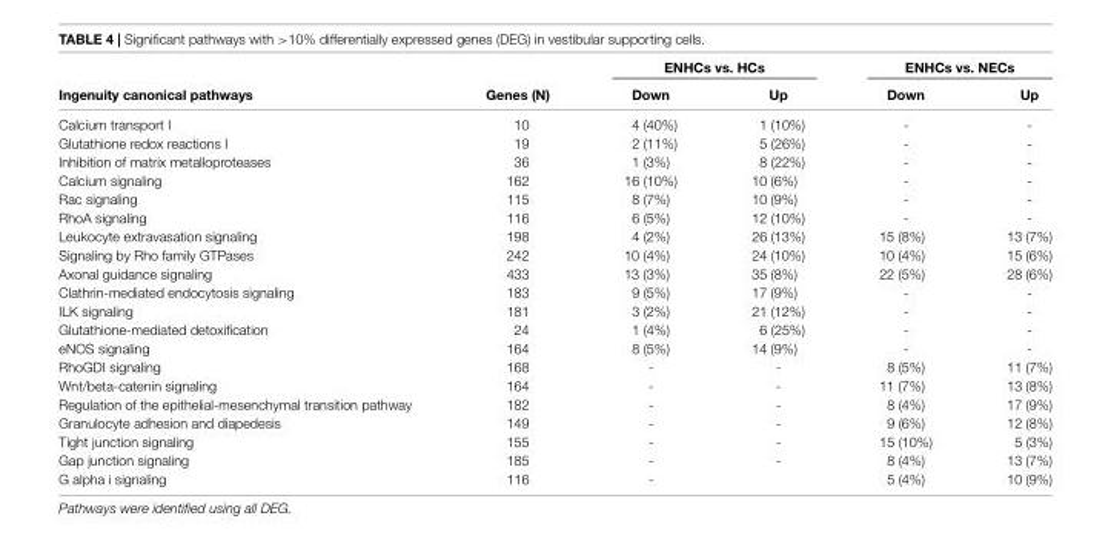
<table><thead><tr><td rowspan="2">Ingenuity canonical pathways</td><td rowspan="2">Genes (N)</td><td colspan="2">ENHCs vs. HCs</td><td colspan="2">ENHCs vs. NECs</td></tr><tr><td>Down</td><td>Up</td><td>Down</td><td>Up</td></tr></thead><tbody><tr><td>Calcium transport I</td><td>10</td><td>4 (40%)</td><td>1 (10%)</td><td>-</td><td>-</td></tr><tr><td>Glutathione redox reactions I</td><td>19</td><td>2 (11%)</td><td>5 (26%)</td><td>-</td><td>-</td></tr><tr><td>Inhibition of matrix metalloproteases</td><td>36</td><td>1 (3%)</td><td>8 (22%)</td><td>-</td><td>-</td></tr><tr><td>Calcium signaling</td><td>162</td><td>16 (10%)</td><td>10 (6%)</td><td>-</td><td>-</td></tr><tr><td>Rac signaling</td><td>115</td><td>8 (7%)</td><td>10 (9%)</td><td>-</td><td>-</td></tr><tr><td>RhoA signaling</td><td>116</td><td>6 (5%)</td><td>12 (10%)</td><td>-</td><td>-</td></tr><tr><td>Leukocyte extravasation signaling</td><td>198</td><td>4 (2%)</td><td>26 (13%)</td><td>15 (8%)</td><td>13 (7%)</td></tr><tr><td>Signaling by Rho family GTPases</td><td>242</td><td>10 (4%)</td><td>24 (10%)</td><td>10 (4%)</td><td>15 (6%)</td></tr><tr><td>Axonal guidance signaling</td><td>433</td><td>13 (3%)</td><td>35 (8%)</td><td>22 (5%)</td><td>28 (6%)</td></tr><tr><td>Clathrin-mediated endocytosis signaling</td><td>183</td><td>9 (5%)</td><td>17 (9%)</td><td>-</td><td>-</td></tr><tr><td>ILK signaling</td><td>181</td><td>3 (2%)</td><td>21 (12%)</td><td>-</td><td>-</td></tr><tr><td>Glutathione-mediated detoxification</td><td>24</td><td>1 (4%)</td><td>6 (25%)</td><td>-</td><td>-</td></tr><tr><td>eNOS signaling</td><td>164</td><td>8 (5%)</td><td>14 (9%)</td><td>-</td><td>-</td></tr><tr><td>RhoGDI signaling</td><td>168</td><td>-</td><td>-</td><td>8 (5%)</td><td>11 (7%)</td></tr><tr><td>Wnt/beta-catenin signaling</td><td>164</td><td>-</td><td>-</td><td>11 (7%)</td><td>13 (8%)</td></tr><tr><td>Regulation of the epithelial-mesenchymal transition pathway</td><td>182</td><td>-</td><td>-</td><td>8 (4%)</td><td>17 (9%)</td></tr><tr><td>Granulocyte adhesion and diapedesis</td><td>149</td><td>-</td><td>-</td><td>9 (6%)</td><td>12 (8%)</td></tr><tr><td>Tight junction signaling</td><td>155</td><td>-</td><td>-</td><td>15 (10%)</td><td>5 (3%)</td></tr><tr><td>Gap junction signaling</td><td>185</td><td>-</td><td>-</td><td>8 (4%)</td><td>13 (7%)</td></tr><tr><td>G alpha i signaling</td><td>116</td><td>-</td><td></td><td>5 (4%)</td><td>10 (9%)</td></tr></tbody></table>